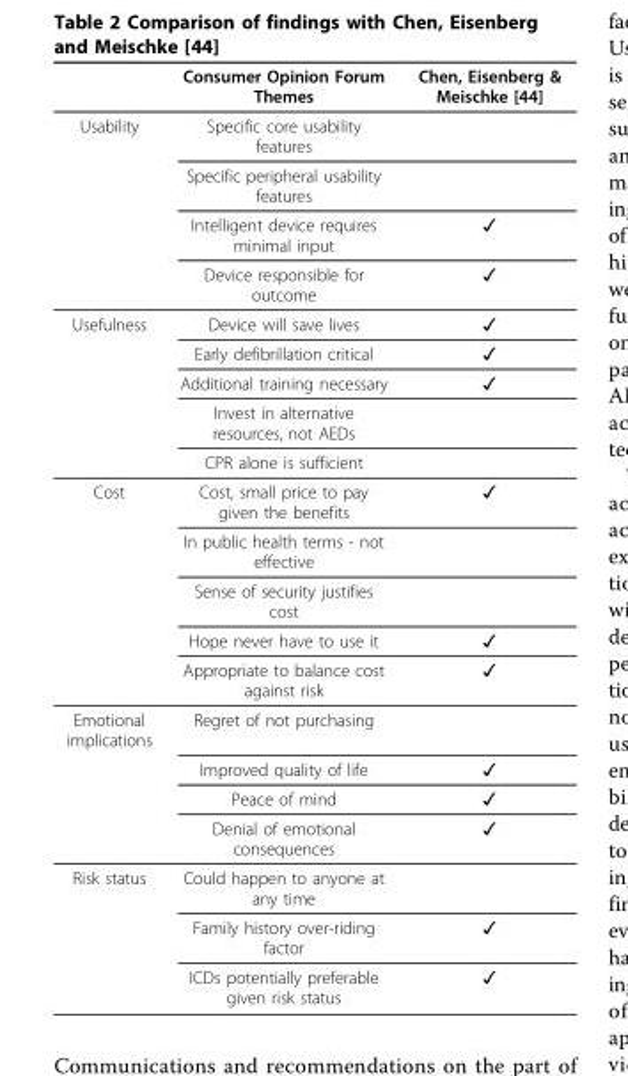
<table><thead><tr><td></td><td>Consumer Opinion Forum Themes</td><td>Chen, Eisenberg &amp; Meischke [44]</td></tr></thead><tbody><tr><td rowspan="4">Usability</td><td>Specific core usability features</td><td></td></tr><tr><td>Specific peripheral usability features</td><td></td></tr><tr><td>Intelligent device requires minimal input</td><td>✓</td></tr><tr><td>Device responsible for outcome</td><td>✓</td></tr><tr><td rowspan="5">Usefulness</td><td>Device will save lives</td><td>✓</td></tr><tr><td>Early defibrillation critical</td><td>✓</td></tr><tr><td>Additional training necessary</td><td>✓</td></tr><tr><td>Invest in alternative resources, not AEDs</td><td></td></tr><tr><td>CPR alone is sufficient</td><td></td></tr><tr><td rowspan="5">Cost</td><td>Cost, small price to pay given the benefits</td><td>✓</td></tr><tr><td>In public health terms - not effective</td><td></td></tr><tr><td>Sense of security justifies cost</td><td></td></tr><tr><td>Hope never have to use it</td><td>✓</td></tr><tr><td>Appropriate to balance cost against risk</td><td>✓</td></tr><tr><td rowspan="4">Emotional implications</td><td>Regret of not purchasing</td><td></td></tr><tr><td>Improved quality of life</td><td>✓</td></tr><tr><td>Peace of mind</td><td>✓</td></tr><tr><td>Denial of emotional consequences</td><td>✓</td></tr><tr><td rowspan="3">Risk status</td><td>Could happen to anyone at any time</td><td></td></tr><tr><td>Family history over-riding factor</td><td>✓</td></tr><tr><td>ICDs potentially preferable given risk status</td><td>✓</td></tr></tbody></table>